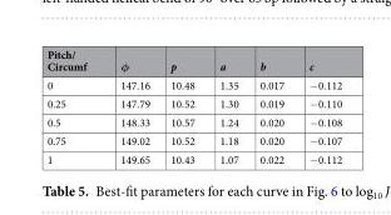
<table><thead><tr><td>Pitch/ Circumf</td><td>φ</td><td>p</td><td>a</td><td>b</td><td>c</td></tr></thead><tbody><tr><td>0</td><td>147.16</td><td>10.48</td><td>1.35</td><td>0.017</td><td>−0.112</td></tr><tr><td>0.25</td><td>147.79</td><td>10.52</td><td>1.30</td><td>0.019</td><td>−0.110</td></tr><tr><td>0.5</td><td>148.33</td><td>10.57</td><td>1.24</td><td>0.020</td><td>−0.108</td></tr><tr><td>0.75</td><td>149.02</td><td>10.52</td><td>1.18</td><td>0.020</td><td>−0.107</td></tr><tr><td>1</td><td>149.65</td><td>10.43</td><td>1.07</td><td>0.022</td><td>−0.112</td></tr></tbody></table>